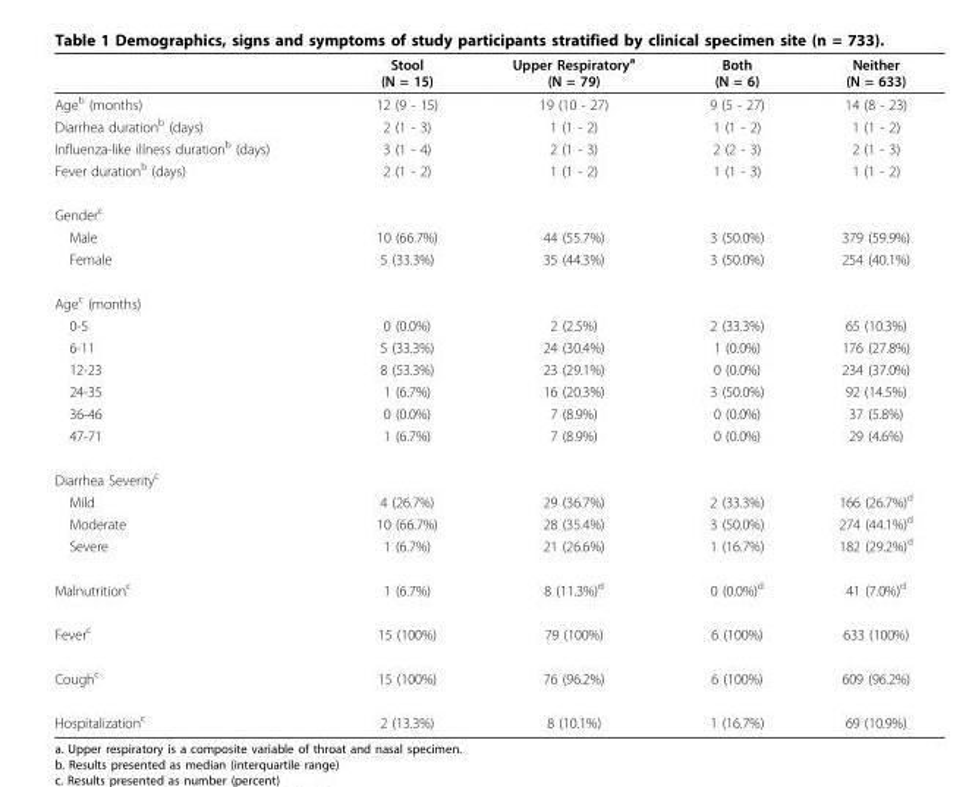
<table><thead><tr><td></td><td>Stool (N = 15)</td><td>Upper Respiratory<sup>a</sup> (N = 79)</td><td>Both (N = 6)</td><td>Neither (N = 633)</td></tr></thead><tbody><tr><td>Age<sup>b</sup> (months)</td><td>12 (9 - 15)</td><td>19 (10 - 27)</td><td>9 (5 - 27)</td><td>14 (8 - 23)</td></tr><tr><td>Diarrhea duration<sup>b</sup> (days)</td><td>2 (1 - 3)</td><td>1 (1 - 2)</td><td>1 (1 - 2)</td><td>1 (1 - 2)</td></tr><tr><td>Influenza-like illness duration<sup>b</sup> (days)</td><td>3 (1 - 4)</td><td>2 (1 - 3)</td><td>2 (2 - 3)</td><td>2 (1 - 3)</td></tr><tr><td>Fever duration<sup>b</sup> (days)</td><td>2 (1 - 2)</td><td>1 (1 - 2)</td><td>1 (1 - 3)</td><td>1 (1 - 2)</td></tr><tr><td colspan="5">Gender<sup>c</sup></td></tr><tr><td>Male</td><td>10 (66.7%)</td><td>44 (55.7%)</td><td>3 (50.0%)</td><td>379 (59.9%)</td></tr><tr><td>Female</td><td>5 (33.3%)</td><td>35 (44.3%)</td><td>3 (50.0%)</td><td>254 (40.1%)</td></tr><tr><td colspan="5">Age<sup>c</sup> (months)</td></tr><tr><td>0-5</td><td>0 (0.0%)</td><td>2 (2.5%)</td><td>2 (33.3%)</td><td>65 (10.3%)</td></tr><tr><td>6-11</td><td>5 (33.3%)</td><td>24 (30.4%)</td><td>1 (0.0%)</td><td>176 (27.8%)</td></tr><tr><td>12-23</td><td>8 (53.3%)</td><td>23 (29.1%)</td><td>0 (0.0%)</td><td>234 (37.0%)</td></tr><tr><td>24-35</td><td>1 (6.7%)</td><td>16 (20.3%)</td><td>3 (50.0%)</td><td>92 (14.5%)</td></tr><tr><td>36-46</td><td>0 (0.0%)</td><td>7 (8.9%)</td><td>0 (0.0%)</td><td>37 (5.8%)</td></tr><tr><td>47-71</td><td>1 (6.7%)</td><td>7 (8.9%)</td><td>0 (0.0%)</td><td>29 (4.6%)</td></tr><tr><td colspan="5">Diarrhea Severity<sup>c</sup></td></tr><tr><td>Mild</td><td>4 (26.7%)</td><td>29 (36.7%)</td><td>2 (33.3%)</td><td>166 (26.7%)<sup>d</sup></td></tr><tr><td>Moderate</td><td>10 (66.7%)</td><td>28 (35.4%)</td><td>3 (50.0%)</td><td>274 (44.1%)<sup>d</sup></td></tr><tr><td>Severe</td><td>1 (6.7%)</td><td>21 (26.6%)</td><td>1 (16.7%)</td><td>182 (29.2%)<sup>d</sup></td></tr><tr><td>Malnutrition<sup>c</sup></td><td>1 (6.7%)</td><td>8 (11.3%)<sup>d</sup></td><td>0 (0.0%)<sup>d</sup></td><td>41 (7.0%)<sup>d</sup></td></tr><tr><td>Fever<sup>c</sup></td><td>15 (100%)</td><td>79 (100%)</td><td>6 (100%)</td><td>633 (100%)</td></tr><tr><td>Cough<sup>c</sup></td><td>15 (100%)</td><td>76 (96.2%)</td><td>6 (100%)</td><td>609 (96.2%)</td></tr><tr><td>Hospitalization<sup>c</sup></td><td>2 (13.3%)</td><td>8 (10.1%)</td><td>1 (16.7%)</td><td>69 (10.9%)</td></tr></tbody></table>